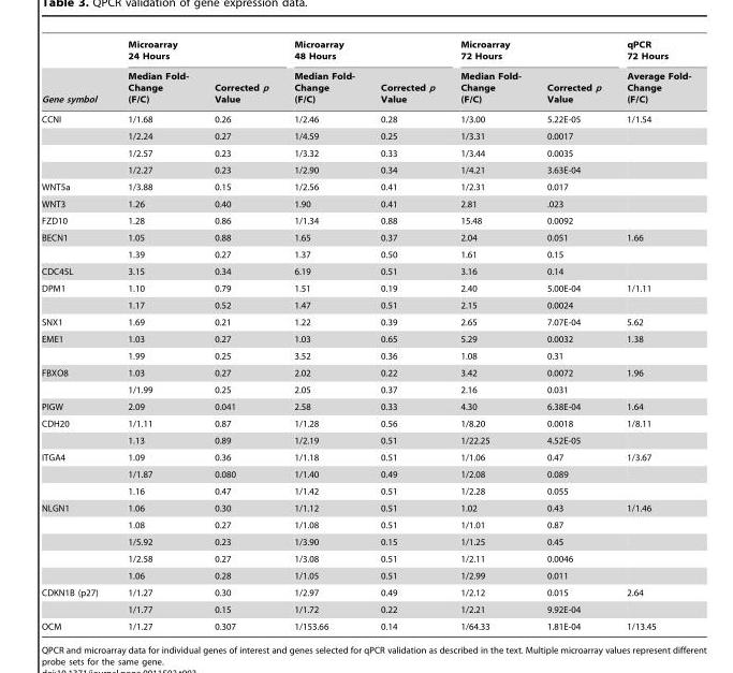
<table><thead><tr><td rowspan="2">Gene symbol</td><td colspan="2">Microarray 24 Hours</td><td colspan="2">Microarray 48 Hours</td><td colspan="2">Microarray 72 Hours</td><td rowspan="2">qPCR 72 Hours Average Fold- Change (F/C)</td></tr><tr><td>Median Fold- Change (F/C)</td><td>Corrected p Value</td><td>Median Fold- Change (F/C)</td><td>Corrected p Value</td><td>Median Fold- Change (F/C)</td><td>Corrected p Value</td></tr></thead><tbody><tr><td rowspan="4">CCNI</td><td>1/1.68</td><td>0.26</td><td>1/2.46</td><td>0.28</td><td>1/3.00</td><td>5.22E-05</td><td>1/1.54</td></tr><tr><td>1/2.24</td><td>0.27</td><td>1/4.59</td><td>0.25</td><td>1/3.31</td><td>0.0017</td><td></td></tr><tr><td>1/2.57</td><td>0.23</td><td>1/3.32</td><td>0.33</td><td>1/3.44</td><td>0.0035</td><td></td></tr><tr><td>1/2.27</td><td>0.23</td><td>1/2.90</td><td>0.34</td><td>1/4.21</td><td>3.63E-04</td><td></td></tr><tr><td>WNT5a</td><td>1/3.88</td><td>0.15</td><td>1/2.56</td><td>0.41</td><td>1/2.31</td><td>0.017</td><td></td></tr><tr><td>WNT3</td><td>1.26</td><td>0.40</td><td>1.90</td><td>0.41</td><td>2.81</td><td>.023</td><td></td></tr><tr><td>FZD10</td><td>1.28</td><td>0.86</td><td>1/1.34</td><td>0.88</td><td>15.48</td><td>0.0092</td><td></td></tr><tr><td rowspan="2">BECN1</td><td>1.05</td><td>0.88</td><td>1.65</td><td>0.37</td><td>2.04</td><td>0.051</td><td>1.66</td></tr><tr><td>1.39</td><td>0.27</td><td>1.37</td><td>0.50</td><td>1.61</td><td>0.15</td><td></td></tr><tr><td>CDC45L</td><td>3.15</td><td>0.34</td><td>6.19</td><td>0.51</td><td>3.16</td><td>0.14</td><td></td></tr><tr><td rowspan="2">DPM1</td><td>1.10</td><td>0.79</td><td>1.51</td><td>0.19</td><td>2.40</td><td>5.00E-04</td><td>1/1.11</td></tr><tr><td>1.17</td><td>0.52</td><td>1.47</td><td>0.51</td><td>2.15</td><td>0.0024</td><td></td></tr><tr><td>SNX1</td><td>1.69</td><td>0.21</td><td>1.22</td><td>0.39</td><td>2.65</td><td>7.07E-04</td><td>5.62</td></tr><tr><td rowspan="2">EME1</td><td>1.03</td><td>0.27</td><td>1.03</td><td>0.65</td><td>5.29</td><td>0.0032</td><td>1.38</td></tr><tr><td>1.99</td><td>0.25</td><td>3.52</td><td>0.36</td><td>1.08</td><td>0.31</td><td></td></tr><tr><td rowspan="2">FBXO8</td><td>1.03</td><td>0.27</td><td>2.02</td><td>0.22</td><td>3.42</td><td>0.0072</td><td>1.96</td></tr><tr><td>1/1.99</td><td>0.25</td><td>2.05</td><td>0.37</td><td>2.16</td><td>0.031</td><td></td></tr><tr><td>PIGW</td><td>2.09</td><td>0.041</td><td>2.58</td><td>0.33</td><td>4.30</td><td>6.38E-04</td><td>1.64</td></tr><tr><td rowspan="2">CDH20</td><td>1/1.11</td><td>0.87</td><td>1/1.28</td><td>0.56</td><td>1/8.20</td><td>0.0018</td><td>1/8.11</td></tr><tr><td>1.13</td><td>0.89</td><td>1/2.19</td><td>0.51</td><td>1/22.25</td><td>4.52E-05</td><td></td></tr><tr><td rowspan="3">ITGA4</td><td>1.09</td><td>0.36</td><td>1/1.18</td><td>0.51</td><td>1/1.06</td><td>0.47</td><td>1/3.67</td></tr><tr><td>1/1.87</td><td>0.080</td><td>1/1.40</td><td>0.49</td><td>1/2.08</td><td>0.089</td><td></td></tr><tr><td>1.16</td><td>0.47</td><td>1/1.42</td><td>0.51</td><td>1/2.28</td><td>0.055</td><td></td></tr><tr><td rowspan="5">NLGN1</td><td>1.06</td><td>0.30</td><td>1/1.12</td><td>0.51</td><td>1.02</td><td>0.43</td><td>1/1.46</td></tr><tr><td>1.08</td><td>0.27</td><td>1/1.08</td><td>0.51</td><td>1/1.01</td><td>0.87</td><td></td></tr><tr><td>1/5.92</td><td>0.23</td><td>1/3.90</td><td>0.15</td><td>1/1.25</td><td>0.45</td><td></td></tr><tr><td>1/2.58</td><td>0.27</td><td>1/3.08</td><td>0.51</td><td>1/2.11</td><td>0.0046</td><td></td></tr><tr><td>1.06</td><td>0.28</td><td>1/1.05</td><td>0.51</td><td>1/2.99</td><td>0.011</td><td></td></tr><tr><td rowspan="2">CDKN1B (p27)</td><td>1/1.27</td><td>0.30</td><td>1/2.97</td><td>0.49</td><td>1/2.12</td><td>0.015</td><td>2.64</td></tr><tr><td>1/1.77</td><td>0.15</td><td>1/1.72</td><td>0.22</td><td>1/2.21</td><td>9.92E-04</td><td></td></tr><tr><td>OCM</td><td>1/1.27</td><td>0.307</td><td>1/153.66</td><td>0.14</td><td>1/64.33</td><td>1.81E-04</td><td>1/13.45</td></tr></tbody></table>